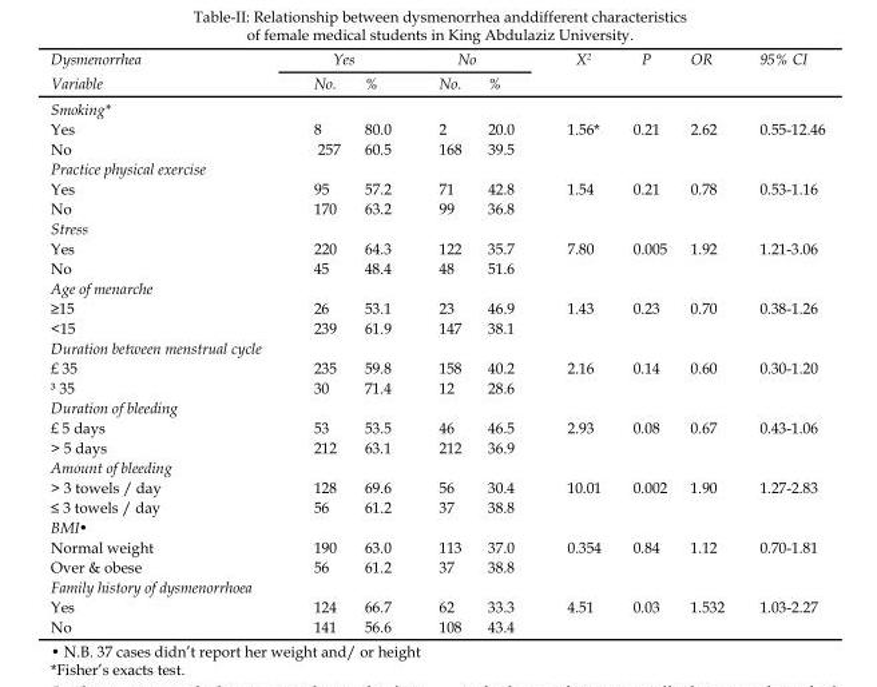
<table><thead><tr><td rowspan="2">Dysmenorrhea Variable</td><td colspan="2">Yes</td><td colspan="2">No</td><td rowspan="2">X<sup>2</sup></td><td rowspan="2">P</td><td rowspan="2">OR</td><td rowspan="2">95% CI</td></tr><tr><td>No.</td><td>%</td><td>No.</td><td>%</td></tr></thead><tbody><tr><td colspan="9">Smoking*</td></tr><tr><td>Yes</td><td>8</td><td>80.0</td><td>2</td><td>20.0</td><td>1.56*</td><td>0.21</td><td>2.62</td><td>0.55-12.46</td></tr><tr><td>No</td><td>257</td><td>60.5</td><td>168</td><td>39.5</td><td></td><td></td><td></td><td></td></tr><tr><td colspan="9">Practice physical exercise</td></tr><tr><td>Yes</td><td>95</td><td>57.2</td><td>71</td><td>42.8</td><td>1.54</td><td>0.21</td><td>0.78</td><td>0.53-1.16</td></tr><tr><td>No</td><td>170</td><td>63.2</td><td>99</td><td>36.8</td><td></td><td></td><td></td><td></td></tr><tr><td colspan="9">Stress</td></tr><tr><td>Yes</td><td>220</td><td>64.3</td><td>122</td><td>35.7</td><td>7.80</td><td>0.005</td><td>1.92</td><td>1.21-3.06</td></tr><tr><td>No</td><td>45</td><td>48.4</td><td>48</td><td>51.6</td><td></td><td></td><td></td><td></td></tr><tr><td colspan="9">Age of menarche</td></tr><tr><td>≥15</td><td>26</td><td>53.1</td><td>23</td><td>46.9</td><td>1.43</td><td>0.23</td><td>0.70</td><td>0.38-1.26</td></tr><tr><td>&lt;15</td><td>239</td><td>61.9</td><td>147</td><td>38.1</td><td></td><td></td><td></td><td></td></tr><tr><td colspan="9">Duration between menstrual cycle</td></tr><tr><td>£ 35</td><td>235</td><td>59.8</td><td>158</td><td>40.2</td><td>2.16</td><td>0.14</td><td>0.60</td><td>0.30-1.20</td></tr><tr><td>³ 35</td><td>30</td><td>71.4</td><td>12</td><td>28.6</td><td></td><td></td><td></td><td></td></tr><tr><td colspan="9">Duration of bleeding</td></tr><tr><td>£ 5 days</td><td>53</td><td>53.5</td><td>46</td><td>46.5</td><td>2.93</td><td>0.08</td><td>0.67</td><td>0.43-1.06</td></tr><tr><td>&gt; 5 days</td><td>212</td><td>63.1</td><td>212</td><td>36.9</td><td></td><td></td><td></td><td></td></tr><tr><td colspan="9">Amount of bleeding</td></tr><tr><td>&gt; 3 towels / day</td><td>128</td><td>69.6</td><td>56</td><td>30.4</td><td>10.01</td><td>0.002</td><td>1.90</td><td>1.27-2.83</td></tr><tr><td>≤ 3 towels / day</td><td>56</td><td>61.2</td><td>37</td><td>38.8</td><td></td><td></td><td></td><td></td></tr><tr><td colspan="9">BMI<sup>•</sup></td></tr><tr><td>Normal weight</td><td>190</td><td>63.0</td><td>113</td><td>37.0</td><td>0.354</td><td>0.84</td><td>1.12</td><td>0.70-1.81</td></tr><tr><td>Over &amp; obese</td><td>56</td><td>61.2</td><td>37</td><td>38.8</td><td></td><td></td><td></td><td></td></tr><tr><td colspan="9">Family history of dysmenorrhoea</td></tr><tr><td>Yes</td><td>124</td><td>66.7</td><td>62</td><td>33.3</td><td>4.51</td><td>0.03</td><td>1.532</td><td>1.03-2.27</td></tr><tr><td>No</td><td>141</td><td>56.6</td><td>108</td><td>43.4</td><td></td><td></td><td></td><td></td></tr></tbody></table>